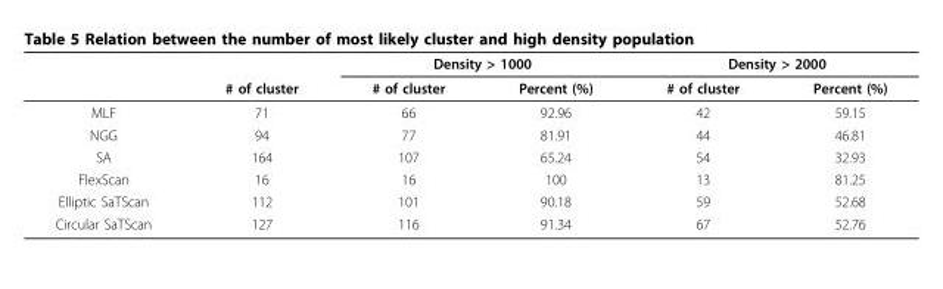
<table><thead><tr><td rowspan="2"></td><td rowspan="2"># of cluster</td><td colspan="2">Density &gt; 1000</td><td colspan="2">Density &gt; 2000</td></tr><tr><td># of cluster</td><td>Percent (%)</td><td># of cluster</td><td>Percent (%)</td></tr></thead><tbody><tr><td>MLF</td><td>71</td><td>66</td><td>92.96</td><td>42</td><td>59.15</td></tr><tr><td>NGG</td><td>94</td><td>77</td><td>81.91</td><td>44</td><td>46.81</td></tr><tr><td>SA</td><td>164</td><td>107</td><td>65.24</td><td>54</td><td>32.93</td></tr><tr><td>FlexScan</td><td>16</td><td>16</td><td>100</td><td>13</td><td>81.25</td></tr><tr><td>Elliptic SaTScan</td><td>112</td><td>101</td><td>90.18</td><td>59</td><td>52.68</td></tr><tr><td>Circular SaTScan</td><td>127</td><td>116</td><td>91.34</td><td>67</td><td>52.76</td></tr></tbody></table>